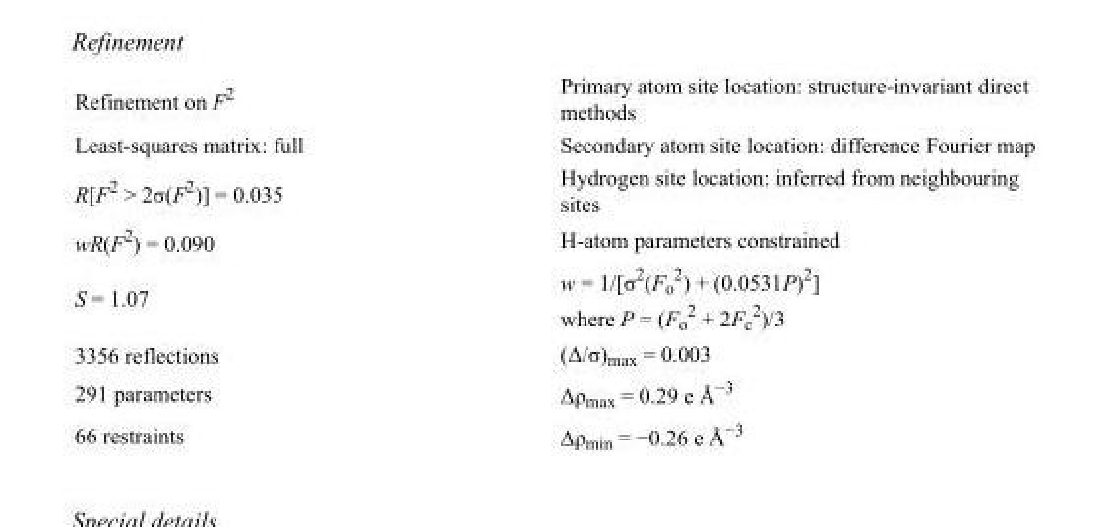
<table><tbody><tr><td>Refinement on F<sup>2</sup></td><td>Primary atom site location: structure-invariant direct methods</td></tr><tr><td>Least-squares matrix: full</td><td>Secondary atom site location: difference Fourier map</td></tr><tr><td>R[F<sup>2</sup> &gt; 2σ(F<sup>2</sup>)] = 0.035</td><td>Hydrogen site location: inferred from neighbouring sites</td></tr><tr><td>wR(F<sup>2</sup>) = 0.090</td><td>H-atom parameters constrained</td></tr><tr><td>S = 1.07</td><td>w = 1/[σ<sup>2</sup>(F<sub>o</sub> <sup>2</sup>) + (0.0531P)<sup>2</sup>] where P = (F<sub>o</sub> <sup>2</sup> + 2F<sub>c</sub> <sup>2</sup>)/3</td></tr><tr><td>3356 reflections</td><td>(Δ/σ)<sub>max</sub> = 0.003</td></tr><tr><td>291 parameters</td><td>Δρ<sub>max</sub> = 0.29 e Å<sup>−3</sup></td></tr><tr><td>66 restraints</td><td>Δρ<sub>min</sub> = −0.26 e Å<sup>−3</sup></td></tr></tbody></table>